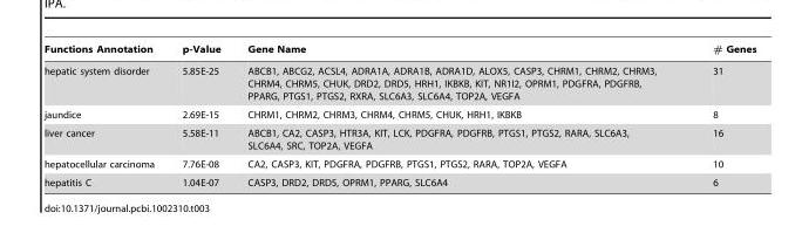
<table><thead><tr><td>Functions Annotation</td><td>p-Value</td><td>Gene Name</td><td># Genes</td></tr></thead><tbody><tr><td>hepatic system disorder</td><td>5.85E-25</td><td>ABCB1, ABCG2, ACSL4, ADRA1A, ADRA1B, ADRA1D, ALOX5, CASP3, CHRM1, CHRM2, CHRM3, CHRM4, CHRM5, CHUK, DRD2, DRD5, HRH1, IKBKB, KIT, NR1I2, OPRM1, PDGFRA, PDGFRB, PPARG, PTGS1, PTGS2, RXRA, SLC6A3, SLC6A4, TOP2A, VEGFA</td><td>31</td></tr><tr><td>jaundice</td><td>2.69E-15</td><td>CHRM1, CHRM2, CHRM3, CHRM4, CHRM5, CHUK, HRH1, IKBKB</td><td>8</td></tr><tr><td>liver cancer</td><td>5.58E-11</td><td>ABCB1, CA2, CASP3, HTR3A, KIT, LCK, PDGFRA, PDGFRB, PTGS1, PTGS2, RARA, SLC6A3, SLC6A4, SRC, TOP2A, VEGFA</td><td>16</td></tr><tr><td>hepatocellular carcinoma</td><td>7.76E-08</td><td>CA2, CASP3, KIT, PDGFRA, PDGFRB, PTGS1, PTGS2, RARA, TOP2A, VEGFA</td><td>10</td></tr><tr><td>hepatitis C</td><td>1.04E-07</td><td>CASP3, DRD2, DRD5, OPRM1, PPARG, SLC6A4</td><td>6</td></tr></tbody></table>